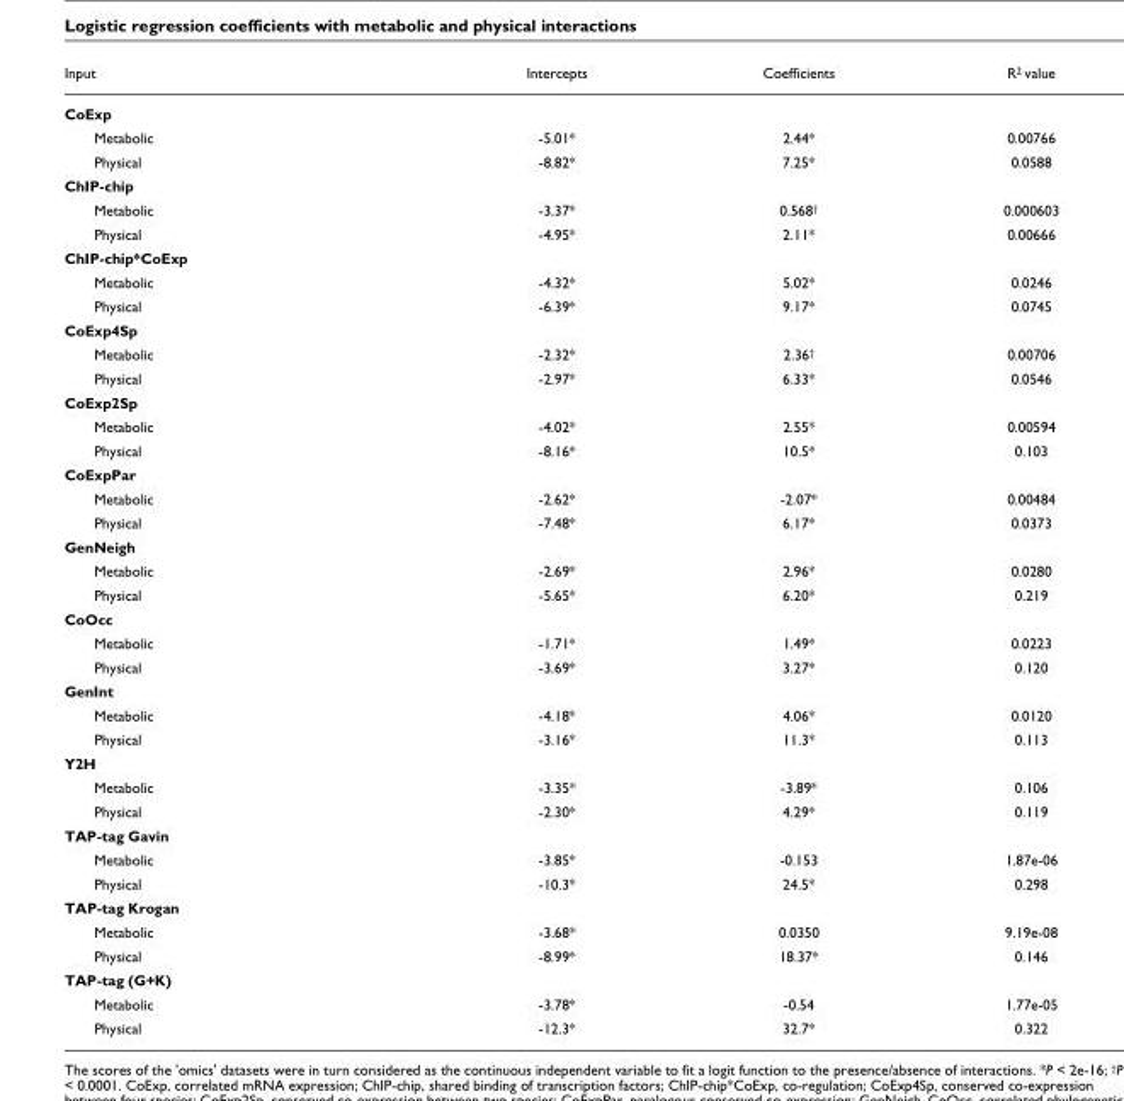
<table><thead><tr><td>Input</td><td>Intercepts</td><td>Coefficients</td><td>R<sup>2</sup> value</td></tr></thead><tbody><tr><td colspan="4">CoExp</td></tr><tr><td>Metabolic</td><td>-5.01*</td><td>2.44*</td><td>0.00766</td></tr><tr><td>Physical</td><td>-8.82*</td><td>7.25*</td><td>0.0588</td></tr><tr><td colspan="4">ChIP-chip</td></tr><tr><td>Metabolic</td><td>-3.37*</td><td>0.568<sup>†</sup></td><td>0.000603</td></tr><tr><td>Physical</td><td>-4.95*</td><td>2.11*</td><td>0.00666</td></tr><tr><td colspan="4">ChIP-chip*CoExp</td></tr><tr><td>Metabolic</td><td>-4.32*</td><td>5.02*</td><td>0.0246</td></tr><tr><td>Physical</td><td>-6.39*</td><td>9.17*</td><td>0.0745</td></tr><tr><td colspan="4">CoExp4Sp</td></tr><tr><td>Metabolic</td><td>-2.32*</td><td>2.36<sup>†</sup></td><td>0.00706</td></tr><tr><td>Physical</td><td>-2.97*</td><td>6.33*</td><td>0.0546</td></tr><tr><td colspan="4">CoExp2Sp</td></tr><tr><td>Metabolic</td><td>-4.02*</td><td>2.55*</td><td>0.00594</td></tr><tr><td>Physical</td><td>-8.16*</td><td>10.5*</td><td>0.103</td></tr><tr><td colspan="4">CoExpPar</td></tr><tr><td>Metabolic</td><td>-2.62*</td><td>-2.07*</td><td>0.00484</td></tr><tr><td>Physical</td><td>-7.48*</td><td>6.17*</td><td>0.0373</td></tr><tr><td colspan="4">GenNeigh</td></tr><tr><td>Metabolic</td><td>-2.69*</td><td>2.96*</td><td>0.0280</td></tr><tr><td>Physical</td><td>-5.65*</td><td>6.20*</td><td>0.219</td></tr><tr><td colspan="4">CoOcc</td></tr><tr><td>Metabolic</td><td>-1.71*</td><td>1.49*</td><td>0.0223</td></tr><tr><td>Physical</td><td>-3.69*</td><td>3.27*</td><td>0.120</td></tr><tr><td colspan="4">GenInt</td></tr><tr><td>Metabolic</td><td>-4.18*</td><td>4.06*</td><td>0.0120</td></tr><tr><td>Physical</td><td>-3.16*</td><td>11.3*</td><td>0.113</td></tr><tr><td colspan="4">Y2H</td></tr><tr><td>Metabolic</td><td>-3.35*</td><td>-3.89*</td><td>0.106</td></tr><tr><td>Physical</td><td>-2.30*</td><td>4.29*</td><td>0.119</td></tr><tr><td colspan="4">TAP-tag Gavin</td></tr><tr><td>Metabolic</td><td>-3.85*</td><td>-0.153</td><td>1.87e-06</td></tr><tr><td>Physical</td><td>-10.3*</td><td>24.5*</td><td>0.298</td></tr><tr><td colspan="4">TAP-tag Krogan</td></tr><tr><td>Metabolic</td><td>-3.68*</td><td>0.0350</td><td>9.19e-08</td></tr><tr><td>Physical</td><td>-8.99*</td><td>18.37*</td><td>0.146</td></tr><tr><td colspan="4">TAP-tag (G+K)</td></tr><tr><td>Metabolic</td><td>-3.78*</td><td>-0.54</td><td>1.77e-05</td></tr><tr><td>Physical</td><td>-12.3*</td><td>32.7*</td><td>0.322</td></tr></tbody></table>